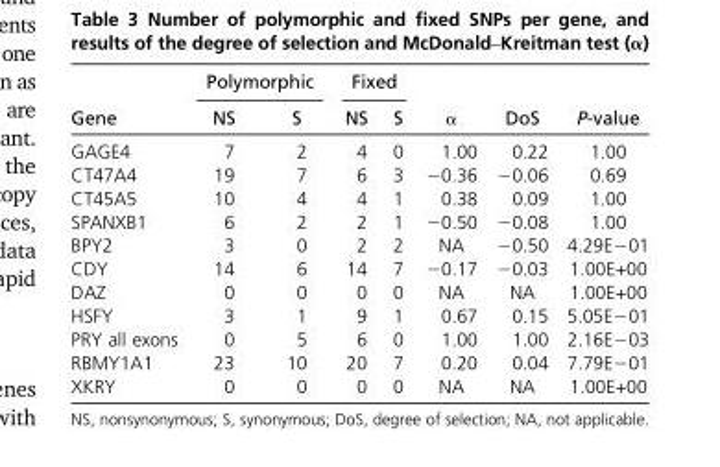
<table><thead><tr><td rowspan="2">Gene</td><td colspan="2">Polymorphic</td><td colspan="2">Fixed</td><td rowspan="2">α</td><td rowspan="2">DoS</td><td rowspan="2">P-value</td></tr><tr><td>NS</td><td>S</td><td>NS</td><td>S</td></tr></thead><tbody><tr><td>GAGE4</td><td>7</td><td>2</td><td>4</td><td>0</td><td>1.00</td><td>0.22</td><td>1.00</td></tr><tr><td>CT47A4</td><td>19</td><td>7</td><td>6</td><td>3</td><td>−0.36</td><td>−0.06</td><td>0.69</td></tr><tr><td>CT45A5</td><td>10</td><td>4</td><td>4</td><td>1</td><td>0.38</td><td>0.09</td><td>1.00</td></tr><tr><td>SPANXB1</td><td>6</td><td>2</td><td>2</td><td>1</td><td>−0.50</td><td>−0.08</td><td>1.00</td></tr><tr><td>BPY2</td><td>3</td><td>0</td><td>2</td><td>2</td><td>NA</td><td>−0.50</td><td>4.29E−01</td></tr><tr><td>CDY</td><td>14</td><td>6</td><td>14</td><td>7</td><td>−0.17</td><td>−0.03</td><td>1.00E+00</td></tr><tr><td>DAZ</td><td>0</td><td>0</td><td>0</td><td>0</td><td>NA</td><td>NA</td><td>1.00E+00</td></tr><tr><td>HSFY</td><td>3</td><td>1</td><td>9</td><td>1</td><td>0.67</td><td>0.15</td><td>5.05E−01</td></tr><tr><td>PRY all exons</td><td>0</td><td>5</td><td>6</td><td>0</td><td>1.00</td><td>1.00</td><td>2.16E−03</td></tr><tr><td>RBMY1A1</td><td>23</td><td>10</td><td>20</td><td>7</td><td>0.20</td><td>0.04</td><td>7.79E−01</td></tr><tr><td>XKRY</td><td>0</td><td>0</td><td>0</td><td>0</td><td>NA</td><td>NA</td><td>1.00E+00</td></tr></tbody></table>